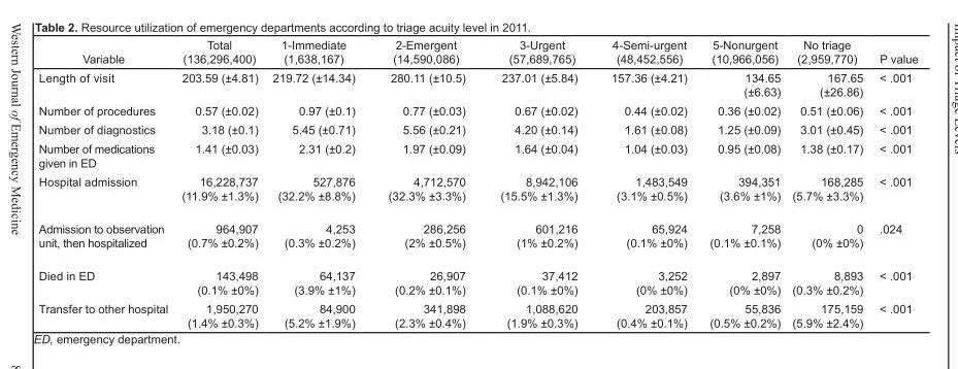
<table><thead><tr><td>Variable</td><td>Total (136,296,400)</td><td>1-Immediate (1,638,167)</td><td>2-Emergent (14,590,086)</td><td>3-Urgent (57,689,765)</td><td>4-Semi-urgent (48,452,556)</td><td>5-Nonurgent (10,966,056)</td><td>No triage (2,959,770)</td><td>P value</td></tr></thead><tbody><tr><td>Length of visit</td><td>203.59 (±4.81)</td><td>219.72 (±14.34)</td><td>280.11 (±10.5)</td><td>237.01 (±5.84)</td><td>157.36 (±4.21)</td><td>134.65 (±6.63)</td><td>167.65 (±26.86)</td><td>&lt; .001</td></tr><tr><td>Number of procedures</td><td>0.57 (±0.02)</td><td>0.97 (±0.1)</td><td>0.77 (±0.03)</td><td>0.67 (±0.02)</td><td>0.44 (±0.02)</td><td>0.36 (±0.02)</td><td>0.51 (±0.06)</td><td>&lt; .001</td></tr><tr><td>Number of diagnostics</td><td>3.18 (±0.1)</td><td>5.45 (±0.71)</td><td>5.56 (±0.21)</td><td>4.20 (±0.14)</td><td>1.61 (±0.08)</td><td>1.25 (±0.09)</td><td>3.01 (±0.45)</td><td>&lt; .001</td></tr><tr><td>Number of medications given in ED</td><td>1.41 (±0.03)</td><td>2.31 (±0.2)</td><td>1.97 (±0.09)</td><td>1.64 (±0.04)</td><td>1.04 (±0.03)</td><td>0.95 (±0.08)</td><td>1.38 (±0.17)</td><td>&lt; .001</td></tr><tr><td>Hospital admission</td><td>16,228,737 (11.9% ±1.3%)</td><td>527,876 (32.2% ±8.8%)</td><td>4,712,570 (32.3% ±3.3%)</td><td>8,942,106 (15.5% ±1.3%)</td><td>1,483,549 (3.1% ±0.5%)</td><td>394,351 (3.6% ±1%)</td><td>168,285 (5.7% ±3.3%)</td><td>&lt; .001</td></tr><tr><td>Admission to observation unit, then hospitalized</td><td>964,907 (0.7% ±0.2%)</td><td>4,253 (0.3% ±0.2%)</td><td>286,256 (2% ±0.5%)</td><td>601,216 (1% ±0.2%)</td><td>65,924 (0.1% ±0%)</td><td>7,258 (0.1% ±0.1%)</td><td>0 (0% ±0%)</td><td>.024</td></tr><tr><td>Died in ED</td><td>143,498 (0.1% ±0%)</td><td>64,137 (3.9% ±1%)</td><td>26,907 (0.2% ±0.1%)</td><td>37,412 (0.1% ±0%)</td><td>3,252 (0% ±0%)</td><td>2,897 (0% ±0%)</td><td>8,893 (0.3% ±0.2%)</td><td>&lt; .001</td></tr><tr><td>Transfer to other hospital</td><td>1,950,270 (1.4% ±0.3%)</td><td>84,900 (5.2% ±1.9%)</td><td>341,898 (2.3% ±0.4%)</td><td>1,088,620 (1.9% ±0.3%)</td><td>203,857 (0.4% ±0.1%)</td><td>55,836 (0.5% ±0.2%)</td><td>175,159 (5.9% ±2.4%)</td><td>&lt; .001</td></tr></tbody></table>